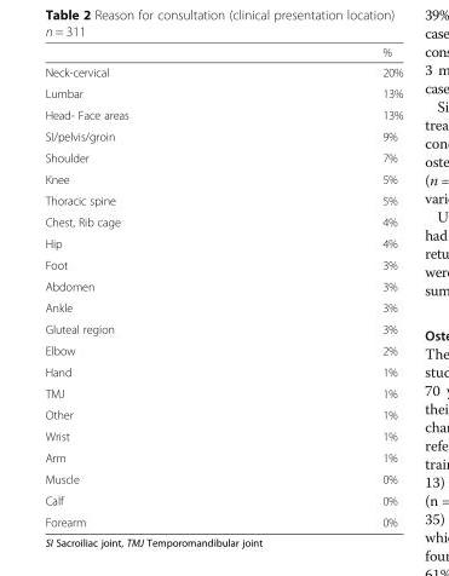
<table><thead><tr><td></td><td>%</td></tr></thead><tbody><tr><td>Neck-cervical</td><td>20%</td></tr><tr><td>Lumbar</td><td>13%</td></tr><tr><td>Head- Face areas</td><td>13%</td></tr><tr><td>SI/pelvis/groin</td><td>9%</td></tr><tr><td>Shoulder</td><td>7%</td></tr><tr><td>Knee</td><td>5%</td></tr><tr><td>Thoracic spine</td><td>5%</td></tr><tr><td>Chest, Rib cage</td><td>4%</td></tr><tr><td>Hip</td><td>4%</td></tr><tr><td>Foot</td><td>3%</td></tr><tr><td>Abdomen</td><td>3%</td></tr><tr><td>Ankle</td><td>3%</td></tr><tr><td>Gluteal region</td><td>3%</td></tr><tr><td>Elbow</td><td>2%</td></tr><tr><td>Hand</td><td>1%</td></tr><tr><td>TMJ</td><td>1%</td></tr><tr><td>Other</td><td>1%</td></tr><tr><td>Wrist</td><td>1%</td></tr><tr><td>Arm</td><td>1%</td></tr><tr><td>Muscle</td><td>0%</td></tr><tr><td>Calf</td><td>0%</td></tr><tr><td>Forearm</td><td>0%</td></tr></tbody></table>